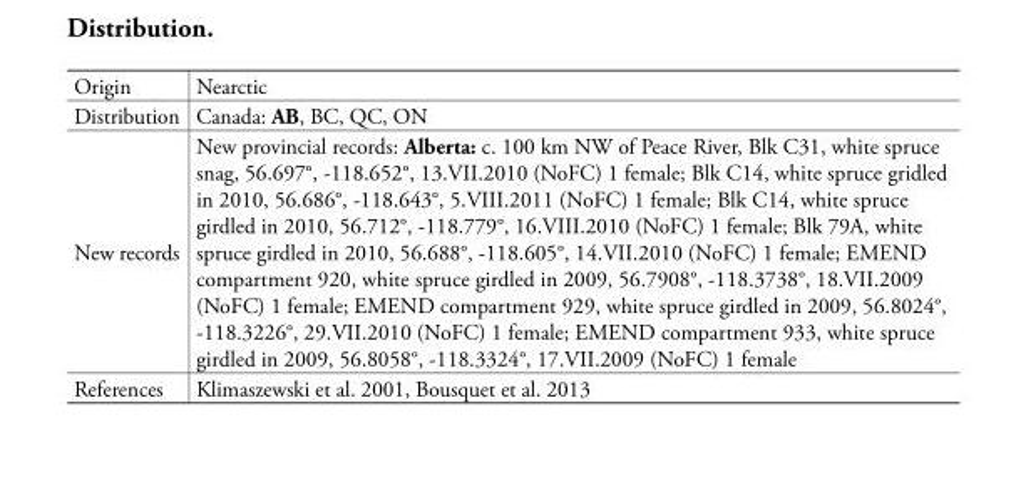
<table><tbody><tr><td>Origin</td><td>Nearctic</td></tr><tr><td>Distribution</td><td>Canada: AB, BC, QC, ON</td></tr><tr><td>New records</td><td>New provincial records: Alberta: c. 100 km NW of Peace River, Blk C31, white spruce snag, 56.697°, -118.652°, 13.VII.2010 (NoFC) 1 female; Blk C14, white spruce gridled in 2010, 56.686°, -118.643°, 5.VIII.2011 (NoFC) 1 female; Blk C14, white spruce girdled in 2010, 56.712°, -118.779°, 16.VIII.2010 (NoFC) 1 female; Blk 79A, white spruce girdled in 2010, 56.688°, -118.605°, 14.VII.2010 (NoFC) 1 female; EMEND compartment 920, white spruce girdled in 2009, 56.7908°, -118.3738°, 18.VII.2009 (NoFC) 1 female; EMEND compartment 929, white spruce girdled in 2009, 56.8024°, -118.3226°, 29.VII.2010 (NoFC) 1 female; EMEND compartment 933, white spruce girdled in 2009, 56.8058°, -118.3324°, 17.VII.2009 (NoFC) 1 female</td></tr><tr><td>References</td><td>Klimaszewski et al. 2001, Bousquet et al. 2013</td></tr></tbody></table>